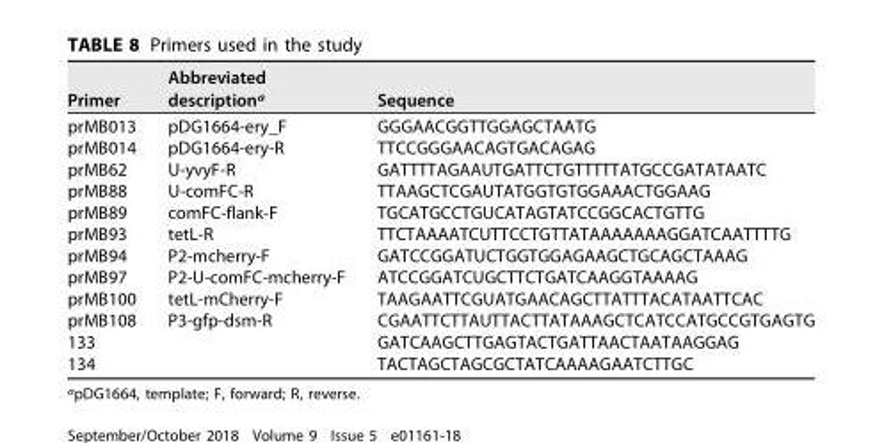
<table><thead><tr><td>Primer</td><td>Abbreviated description<sup>a</sup></td><td>Sequence</td></tr></thead><tbody><tr><td>prMB013</td><td>pDG1664-ery_F</td><td>GGGAACGGTTGGAGCTAATG</td></tr><tr><td>prMB014</td><td>pDG1664-ery-R</td><td>TTCCGGGAACAGTGACAGAG</td></tr><tr><td>prMB62</td><td>U-yvyF-R</td><td>GATTTTAGAAUTGATTCTGTTTTTATGCCGATATAATC</td></tr><tr><td>prMB88</td><td>U-comFC-R</td><td>TTAAGCTCGAUTATGGTGTGGAAACTGGAAG</td></tr><tr><td>prMB89</td><td>comFC-flank-F</td><td>TGCATGCCTGUCATAGTATCCGGCACTGTTG</td></tr><tr><td>prMB93</td><td>tetL-R</td><td>TTCTAAAATCUTTCCTGTTATAAAAAAAGGATCAATTTTG</td></tr><tr><td>prMB94</td><td>P2-mcherry-F</td><td>GATCCGGATUCTGGTGGAGAAGCTGCAGCTAAAG</td></tr><tr><td>prMB97</td><td>P2-U-comFC-mcherry-F</td><td>ATCCGGATCUGCTTCTGATCAAGGTAAAAG</td></tr><tr><td>prMB100</td><td>tetL-mCherry-F</td><td>TAAGAATTCGUATGAACAGCTTATTTACATAATTCAC</td></tr><tr><td>prMB108</td><td>P3-gfp-dsm-R</td><td>CGAATTCTTAUTTACTTATAAAGCTCATCCATGCCGTGAGTG</td></tr><tr><td>133</td><td></td><td>GATCAAGCTTGAGTACTGATTAACTAATAAGGAG</td></tr><tr><td>134</td><td></td><td>TACTAGCTAGCGCTATCAAAAGAATCTTGC</td></tr></tbody></table>